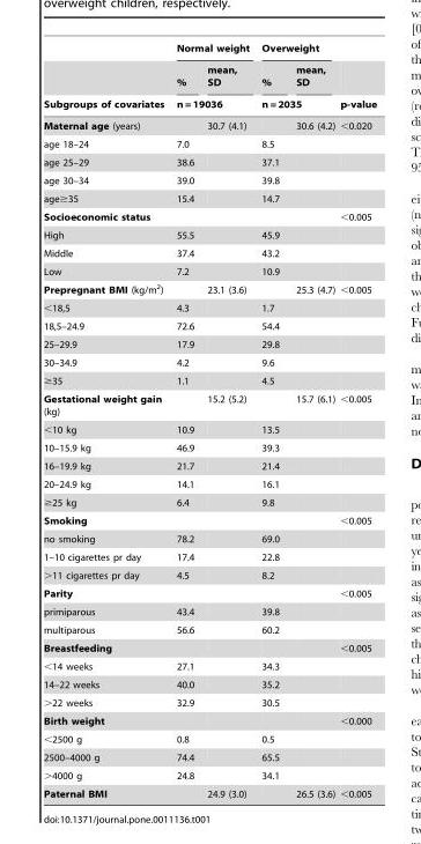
<table><thead><tr><td rowspan="3">Subgroups of covariates</td><td colspan="2">Normal weight</td><td colspan="2">Overweight</td><td rowspan="3">p-value</td></tr><tr><td>%</td><td>mean, SD</td><td>%</td><td>mean, SD</td></tr><tr><td colspan="2">n = 19036</td><td colspan="2">n = 2035</td></tr></thead><tbody><tr><td>Maternal age (years)</td><td></td><td>30.7 (4.1)</td><td></td><td>30.6 (4.2)</td><td>&lt;0.020</td></tr><tr><td>age 18–24</td><td>7.0</td><td></td><td>8.5</td><td></td><td></td></tr><tr><td>age 25–29</td><td>38.6</td><td></td><td>37.1</td><td></td><td></td></tr><tr><td>age 30–34</td><td>39.0</td><td></td><td>39.8</td><td></td><td></td></tr><tr><td>age≥35</td><td>15.4</td><td></td><td>14.7</td><td></td><td></td></tr><tr><td>Socioeconomic status</td><td></td><td></td><td></td><td></td><td>&lt;0.005</td></tr><tr><td>High</td><td colspan="2">55.5</td><td>45.9</td><td></td><td></td></tr><tr><td>Middle</td><td colspan="2">37.4</td><td colspan="2">43.2</td><td></td></tr><tr><td>Low</td><td colspan="2">7.2</td><td colspan="2">10.9</td><td></td></tr><tr><td>Prepregnant BMI (kg/m<sup>2</sup>)</td><td></td><td>23.1 (3.6)</td><td></td><td>25.3 (4.7)</td><td>&lt;0.005</td></tr><tr><td>&lt;18,5</td><td>4.3</td><td></td><td>1.7</td><td></td><td></td></tr><tr><td>18,5–24.9</td><td>72.6</td><td></td><td>54.4</td><td></td><td></td></tr><tr><td>25–29.9</td><td>17.9</td><td></td><td>29.8</td><td></td><td></td></tr><tr><td>30–34.9</td><td>4.2</td><td></td><td>9.6</td><td></td><td></td></tr><tr><td>≥35</td><td>1.1</td><td></td><td>4.5</td><td></td><td></td></tr><tr><td>Gestational weight gain (kg)</td><td></td><td>15.2 (5.2)</td><td></td><td>15.7 (6.1)</td><td>&lt;0.005</td></tr><tr><td>&lt;10 kg</td><td>10.9</td><td></td><td>13.5</td><td></td><td></td></tr><tr><td>10–15.9 kg</td><td>46.9</td><td></td><td>39.3</td><td></td><td></td></tr><tr><td>16–19.9 kg</td><td>21.7</td><td></td><td>21.4</td><td></td><td></td></tr><tr><td>20–24.9 kg</td><td>14.1</td><td></td><td>16.1</td><td></td><td></td></tr><tr><td>≥25 kg</td><td>6.4</td><td></td><td>9.8</td><td></td><td></td></tr><tr><td>Smoking</td><td></td><td></td><td></td><td></td><td>&lt;0.005</td></tr><tr><td>no smoking</td><td>78.2</td><td></td><td>69.0</td><td></td><td></td></tr><tr><td>1–10 cigarettes pr day</td><td>17.4</td><td></td><td>22.8</td><td></td><td></td></tr><tr><td>&gt;11 cigarettes pr day</td><td>4.5</td><td></td><td>8.2</td><td></td><td></td></tr><tr><td>Parity</td><td></td><td></td><td></td><td></td><td>&lt;0.005</td></tr><tr><td>primiparous</td><td>43.4</td><td></td><td>39.8</td><td></td><td></td></tr><tr><td>multiparous</td><td>56.6</td><td></td><td>60.2</td><td></td><td></td></tr><tr><td>Breastfeeding</td><td></td><td></td><td></td><td></td><td>&lt;0.005</td></tr><tr><td>&lt;14 weeks</td><td>27.1</td><td></td><td>34.3</td><td></td><td></td></tr><tr><td>14–22 weeks</td><td>40.0</td><td></td><td>35.2</td><td></td><td></td></tr><tr><td>&gt;22 weeks</td><td>32.9</td><td></td><td>30.5</td><td></td><td></td></tr><tr><td>Birth weight</td><td></td><td></td><td></td><td></td><td>&lt;0.000</td></tr><tr><td>&lt;2500 g</td><td>0.8</td><td></td><td>0.5</td><td></td><td></td></tr><tr><td>2500–4000 g</td><td>74.4</td><td></td><td>65.5</td><td></td><td></td></tr><tr><td>&gt;4000 g</td><td>24.8</td><td></td><td>34.1</td><td></td><td></td></tr><tr><td>Paternal BMI</td><td></td><td>24.9 (3.0)</td><td></td><td>26.5 (3.6)</td><td>&lt;0.005</td></tr></tbody></table>